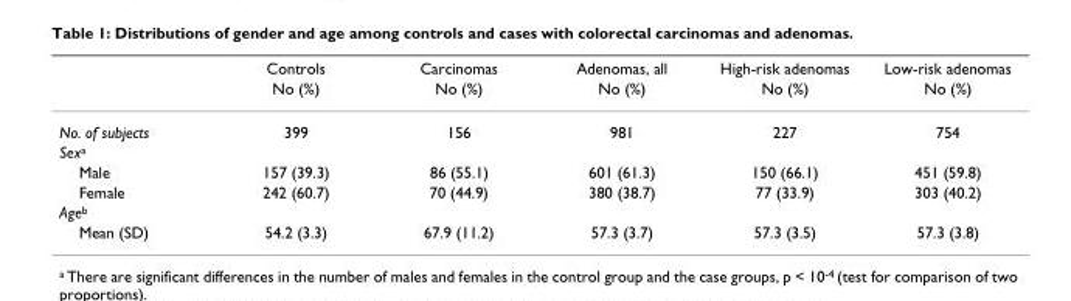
<table><thead><tr><td rowspan="2"></td><td rowspan="2">Controls No (%)</td><td rowspan="2">Carcinomas No (%)</td><td rowspan="2">Adenomas, all No (%)</td><td rowspan="2">High-risk adenomas No (%)</td><td rowspan="2">Low-risk adenomas No (%)</td></tr><tr></tr></thead><tbody><tr><td>No. of subjects</td><td>399</td><td>156</td><td>981</td><td>227</td><td>754</td></tr><tr><td colspan="6">Sexa</td></tr><tr><td>Male</td><td>157 (39.3)</td><td>86 (55.1)</td><td>601 (61.3)</td><td>150 (66.1)</td><td>451 (59.8)</td></tr><tr><td>Female</td><td>242 (60.7)</td><td>70 (44.9)</td><td>380 (38.7)</td><td>77 (33.9)</td><td>303 (40.2)</td></tr><tr><td colspan="6">Ageb</td></tr><tr><td>Mean (SD)</td><td>54.2 (3.3)</td><td>67.9 (11.2)</td><td>57.3 (3.7)</td><td>57.3 (3.5)</td><td>57.3 (3.8)</td></tr></tbody></table>